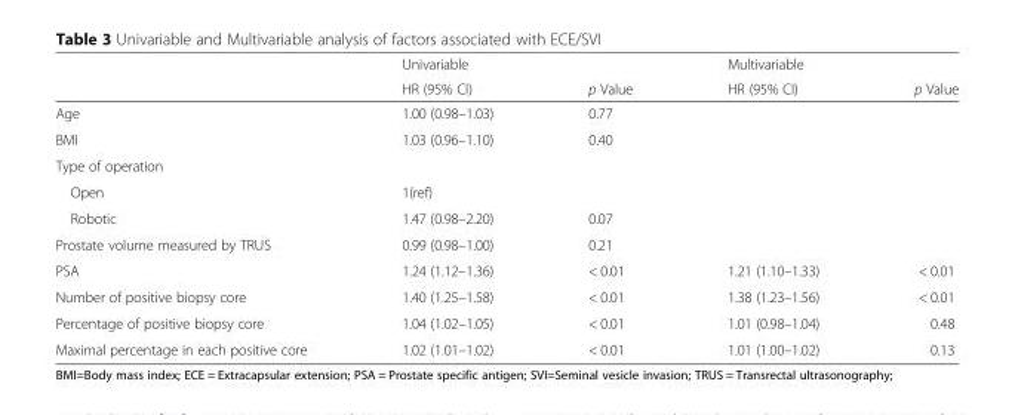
<table><thead><tr><td rowspan="2"></td><td rowspan="2">Univariable HR (95% CI)</td><td rowspan="2">p Value</td><td rowspan="2">Multivariable HR (95% CI)</td><td rowspan="2">p Value</td></tr><tr></tr></thead><tbody><tr><td>Age</td><td>1.00 (0.98–1.03)</td><td>0.77</td><td></td><td></td></tr><tr><td>BMI</td><td>1.03 (0.96–1.10)</td><td>0.40</td><td></td><td></td></tr><tr><td colspan="5">Type of operation</td></tr><tr><td>Open</td><td>1(ref)</td><td></td><td></td><td></td></tr><tr><td>Robotic</td><td>1.47 (0.98–2.20)</td><td>0.07</td><td></td><td></td></tr><tr><td>Prostate volume measured by TRUS</td><td>0.99 (0.98–1.00)</td><td>0.21</td><td></td><td></td></tr><tr><td>PSA</td><td>1.24 (1.12–1.36)</td><td>&lt; 0.01</td><td>1.21 (1.10–1.33)</td><td>&lt; 0.01</td></tr><tr><td>Number of positive biopsy core</td><td>1.40 (1.25–1.58)</td><td>&lt; 0.01</td><td>1.38 (1.23–1.56)</td><td>&lt; 0.01</td></tr><tr><td>Percentage of positive biopsy core</td><td>1.04 (1.02–1.05)</td><td>&lt; 0.01</td><td>1.01 (0.98–1.04)</td><td>0.48</td></tr><tr><td>Maximal percentage in each positive core</td><td>1.02 (1.01–1.02)</td><td>&lt; 0.01</td><td>1.01 (1.00–1.02)</td><td>0.13</td></tr></tbody></table>